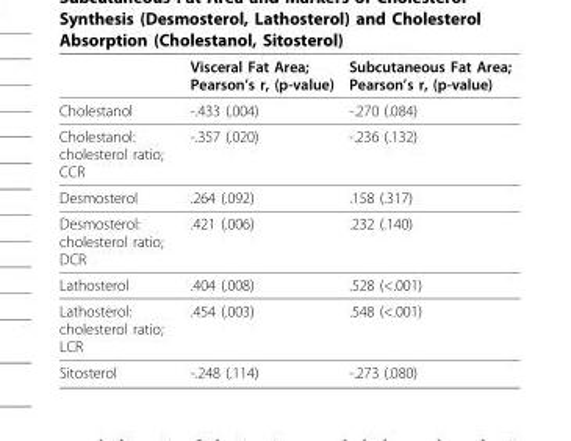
<table><thead><tr><td></td><td>Visceral Fat Area; Pearson’s r, (p-value)</td><td>Subcutaneous Fat Area; Pearson’s r, (p-value)</td></tr></thead><tbody><tr><td>Cholestanol</td><td>-.433 (.004)</td><td>-.270 (.084)</td></tr><tr><td>Cholestanol: cholesterol ratio; CCR</td><td>-.357 (.020)</td><td>-.236 (.132)</td></tr><tr><td>Desmosterol</td><td>.264 (.092)</td><td>.158 (.317)</td></tr><tr><td>Desmosterol: cholesterol ratio; DCR</td><td>.421 (.006)</td><td>.232 (.140)</td></tr><tr><td>Lathosterol</td><td>.404 (.008)</td><td>.528 (&lt;.001)</td></tr><tr><td>Lathosterol: cholesterol ratio; LCR</td><td>.454 (.003)</td><td>.548 (&lt;.001)</td></tr><tr><td>Sitosterol</td><td>-.248 (.114)</td><td>-.273 (.080)</td></tr></tbody></table>